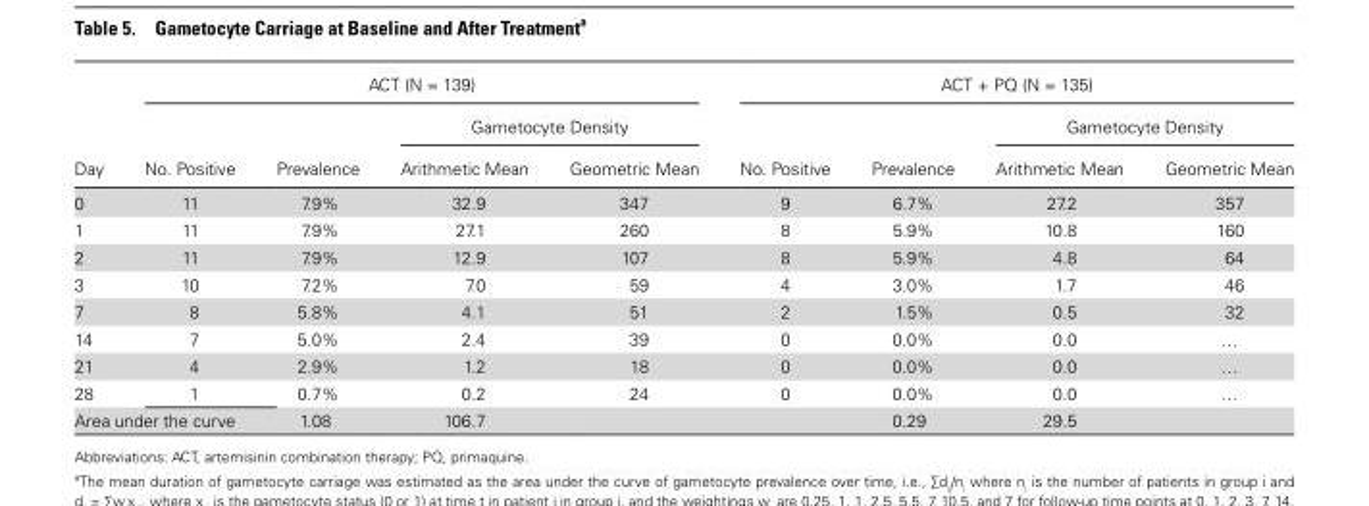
<table><thead><tr><td rowspan="3">Day</td><td colspan="4">ACT (N = 139)</td><td colspan="4">ACT + PQ (N = 135)</td></tr><tr><td rowspan="2">No. Positive</td><td rowspan="2">Prevalence</td><td colspan="2">Gametocyte Density</td><td rowspan="2">No. Positive</td><td rowspan="2">Prevalence</td><td colspan="2">Gametocyte Density</td></tr><tr><td>Arithmetic Mean</td><td>Geometric Mean</td><td>Arithmetic Mean</td><td>Geometric Mean</td></tr></thead><tbody><tr><td>0</td><td>11</td><td>7.9%</td><td>32.9</td><td>347</td><td>9</td><td>6.7%</td><td>27.2</td><td>357</td></tr><tr><td>1</td><td>11</td><td>7.9%</td><td>27.1</td><td>260</td><td>8</td><td>5.9%</td><td>10.8</td><td>160</td></tr><tr><td>2</td><td>11</td><td>7.9%</td><td>12.9</td><td>107</td><td>8</td><td>5.9%</td><td>4.8</td><td>64</td></tr><tr><td>3</td><td>10</td><td>7.2%</td><td>7.0</td><td>59</td><td>4</td><td>3.0%</td><td>1.7</td><td>46</td></tr><tr><td>7</td><td>8</td><td>5.8%</td><td>4.1</td><td>51</td><td>2</td><td>1.5%</td><td>0.5</td><td>32</td></tr><tr><td>14</td><td>7</td><td>5.0%</td><td>2.4</td><td>39</td><td>0</td><td>0.0%</td><td>0.0</td><td>…</td></tr><tr><td>21</td><td>4</td><td>2.9%</td><td>1.2</td><td>18</td><td>0</td><td>0.0%</td><td>0.0</td><td>…</td></tr><tr><td>28</td><td>1</td><td>0.7%</td><td>0.2</td><td>24</td><td>0</td><td>0.0%</td><td>0.0</td><td>…</td></tr><tr><td colspan="2">Area under the curve</td><td>1.08</td><td>106.7</td><td></td><td></td><td>0.29</td><td>29.5</td><td></td></tr></tbody></table>